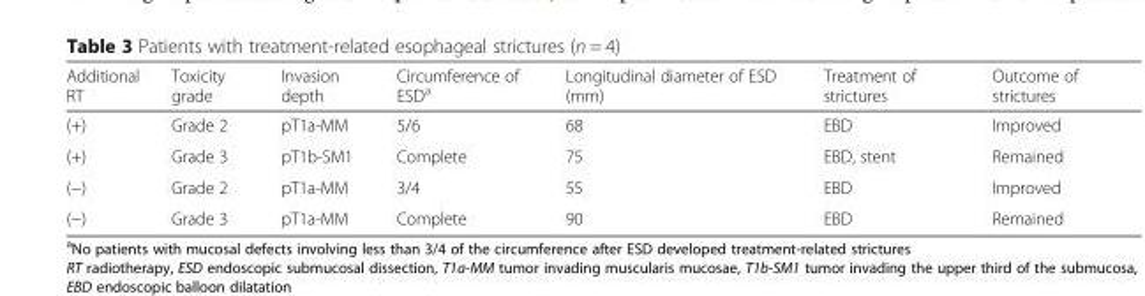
<table><thead><tr><td>Additional RT</td><td>Toxicity grade</td><td>Invasion depth</td><td>Circumference of ESD<sup>a</sup></td><td>Longitudinal diameter of ESD (mm)</td><td>Treatment of strictures</td><td>Outcome of strictures</td></tr></thead><tbody><tr><td>(+)</td><td>Grade 2</td><td>pT1a-MM</td><td>5/6</td><td>68</td><td>EBD</td><td>Improved</td></tr><tr><td>(+)</td><td>Grade 3</td><td>pT1b-SM1</td><td>Complete</td><td>75</td><td>EBD, stent</td><td>Remained</td></tr><tr><td>(−)</td><td>Grade 2</td><td>pT1a-MM</td><td>3/4</td><td>55</td><td>EBD</td><td>Improved</td></tr><tr><td>(−)</td><td>Grade 3</td><td>pT1a-MM</td><td>Complete</td><td>90</td><td>EBD</td><td>Remained</td></tr></tbody></table>